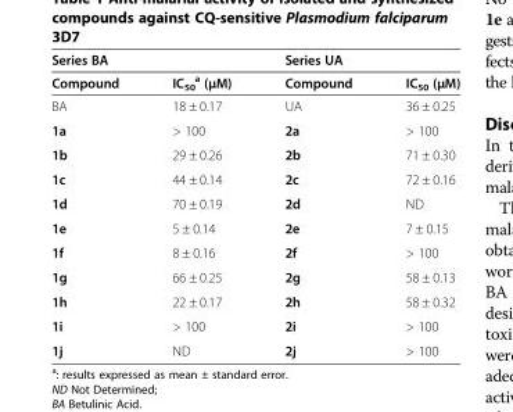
<table><thead><tr><td colspan="2">Series BA</td><td colspan="2">Series UA</td></tr><tr><td>Compound</td><td>IC<sub>50</sub> <sup>a</sup> (μM)</td><td>Compound</td><td>IC<sub>50</sub> (μM)</td></tr></thead><tbody><tr><td>BA</td><td>18 ± 0.17</td><td>UA</td><td>36 ± 0.25</td></tr><tr><td>1a</td><td>&gt; 100</td><td>2a</td><td>&gt; 100</td></tr><tr><td>1b</td><td>29 ± 0.26</td><td>2b</td><td>71 ± 0.30</td></tr><tr><td>1c</td><td>44 ± 0.14</td><td>2c</td><td>72 ± 0.16</td></tr><tr><td>1d</td><td>70 ± 0.19</td><td>2d</td><td>ND</td></tr><tr><td>1e</td><td>5 ± 0.14</td><td>2e</td><td>7 ± 0.15</td></tr><tr><td>1f</td><td>8 ± 0.16</td><td>2f</td><td>&gt; 100</td></tr><tr><td>1g</td><td>66 ± 0.25</td><td>2g</td><td>58 ± 0.13</td></tr><tr><td>1h</td><td>22 ± 0.17</td><td>2h</td><td>58 ± 0.32</td></tr><tr><td>1i</td><td>&gt; 100</td><td>2i</td><td>&gt; 100</td></tr><tr><td>1j</td><td>ND</td><td>2j</td><td>&gt; 100</td></tr></tbody></table>